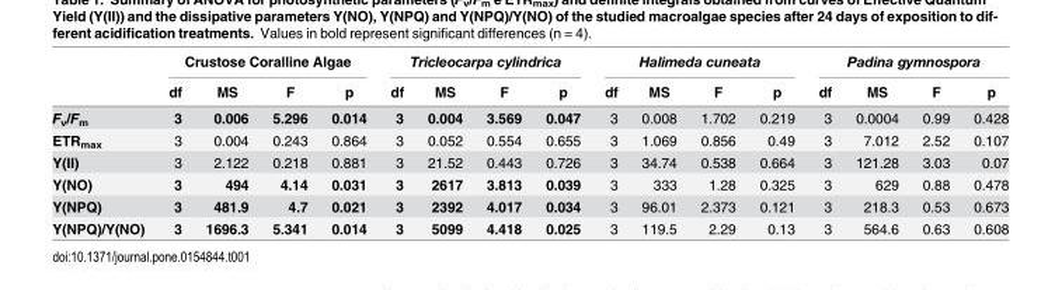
<table><thead><tr><td rowspan="2"></td><td colspan="4">Crustose Coralline Algae</td><td colspan="4">Tricleocarpa cylindrica</td><td colspan="4">Halimeda cuneata</td><td colspan="4">Padina gymnospora</td></tr><tr><td>df</td><td>MS</td><td>F</td><td>p</td><td>df</td><td>MS</td><td>F</td><td>p</td><td>df</td><td>MS</td><td>F</td><td>p</td><td>df</td><td>MS</td><td>F</td><td>p</td></tr></thead><tbody><tr><td>F<sub>v</sub>/F<sub>m</sub></td><td>3</td><td>0.006</td><td>5.296</td><td>0.014</td><td>3</td><td>0.004</td><td>3.569</td><td>0.047</td><td>3</td><td>0.008</td><td>1.702</td><td>0.219</td><td>3</td><td>0.0004</td><td>0.99</td><td>0.428</td></tr><tr><td>ETR<sub>max</sub></td><td>3</td><td>0.004</td><td>0.243</td><td>0.864</td><td>3</td><td>0.052</td><td>0.554</td><td>0.655</td><td>3</td><td>1.069</td><td>0.856</td><td>0.49</td><td>3</td><td>7.012</td><td>2.52</td><td>0.107</td></tr><tr><td>Y(II)</td><td>3</td><td>2.122</td><td>0.218</td><td>0.881</td><td>3</td><td>21.52</td><td>0.443</td><td>0.726</td><td>3</td><td>34.74</td><td>0.538</td><td>0.664</td><td>3</td><td>121.28</td><td>3.03</td><td>0.07</td></tr><tr><td>Y(NO)</td><td>3</td><td>494</td><td>4.14</td><td>0.031</td><td>3</td><td>2617</td><td>3.813</td><td>0.039</td><td>3</td><td>333</td><td>1.28</td><td>0.325</td><td>3</td><td>629</td><td>0.88</td><td>0.478</td></tr><tr><td>Y(NPQ)</td><td>3</td><td>481.9</td><td>4.7</td><td>0.021</td><td>3</td><td>2392</td><td>4.017</td><td>0.034</td><td>3</td><td>96.01</td><td>2.373</td><td>0.121</td><td>3</td><td>218.3</td><td>0.53</td><td>0.673</td></tr><tr><td>Y(NPQ)/Y(NO)</td><td>3</td><td>1696.3</td><td>5.341</td><td>0.014</td><td>3</td><td>5099</td><td>4.418</td><td>0.025</td><td>3</td><td>119.5</td><td>2.29</td><td>0.13</td><td>3</td><td>564.6</td><td>0.63</td><td>0.608</td></tr></tbody></table>